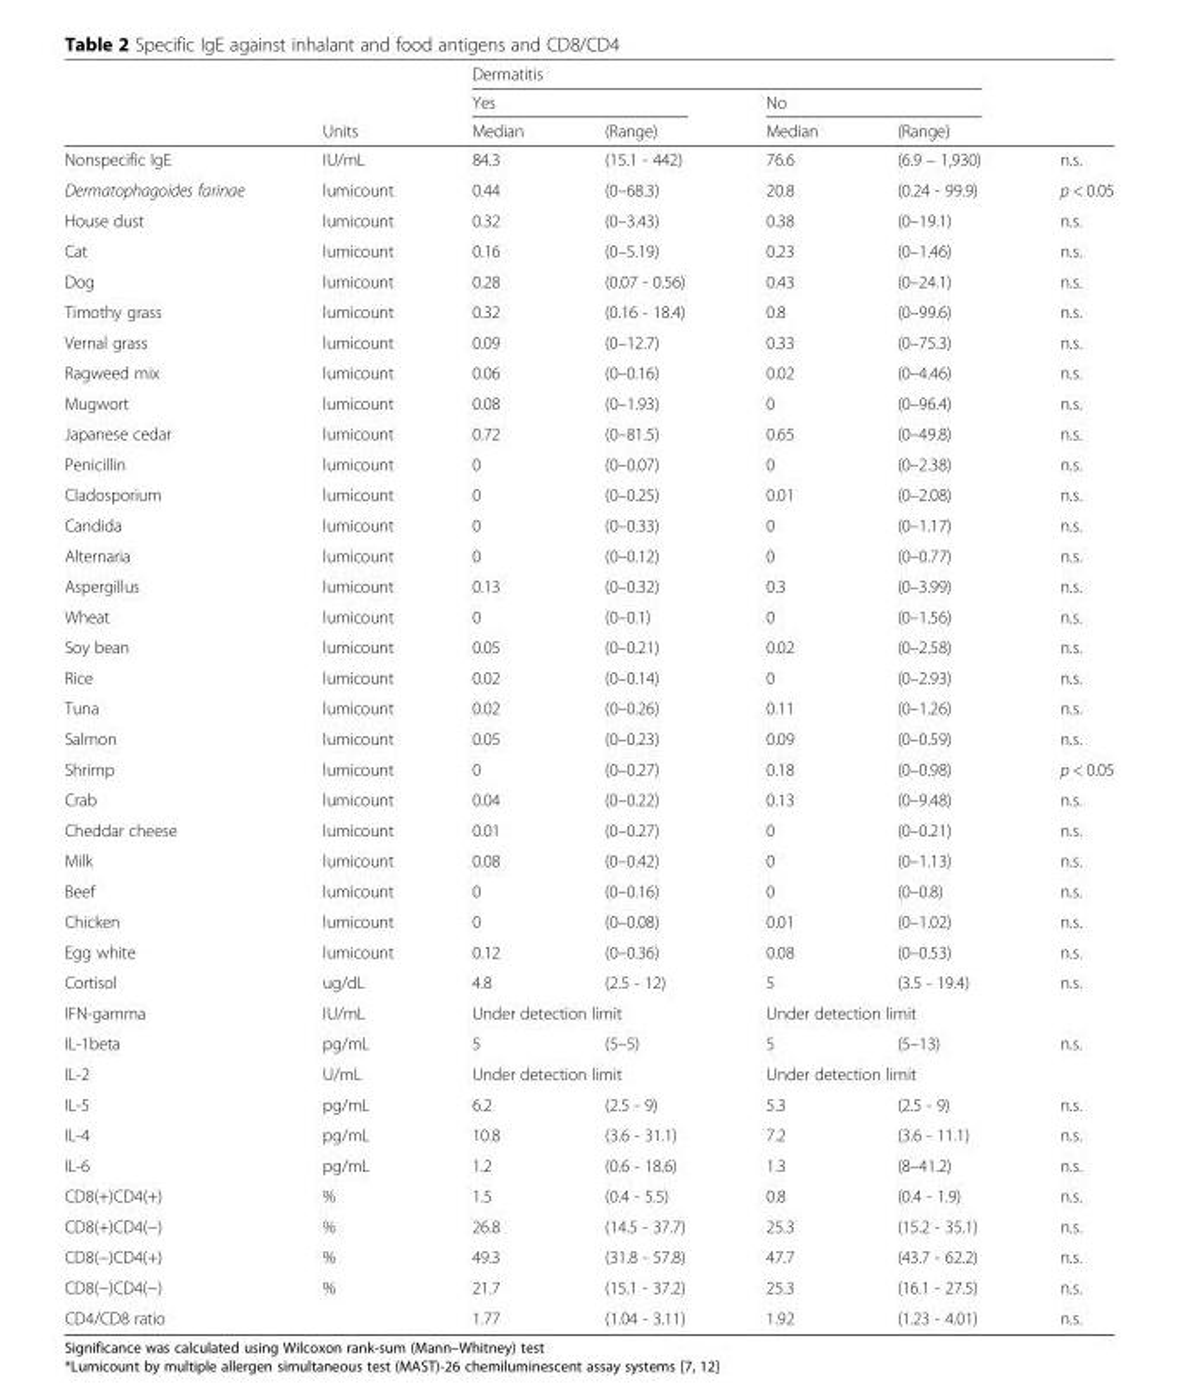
<table><thead><tr><td rowspan="3"></td><td rowspan="3">Units</td><td colspan="4">Dermatitis</td><td rowspan="3"></td></tr><tr><td colspan="2">Yes</td><td colspan="2">No</td></tr><tr><td>Median</td><td>(Range)</td><td>Median</td><td>(Range)</td></tr></thead><tbody><tr><td>Nonspecific IgE</td><td>IU/mL</td><td>84.3</td><td>(15.1 - 442)</td><td>76.6</td><td>(6.9 – 1,930)</td><td>n.s.</td></tr><tr><td>Dermatophagoides farinae</td><td>lumicount</td><td>0.44</td><td>(0–68.3)</td><td>20.8</td><td>(0.24 - 99.9)</td><td>p &lt; 0.05</td></tr><tr><td>House dust</td><td>lumicount</td><td>0.32</td><td>(0–3.43)</td><td>0.38</td><td>(0–19.1)</td><td>n.s.</td></tr><tr><td>Cat</td><td>lumicount</td><td>0.16</td><td>(0–5.19)</td><td>0.23</td><td>(0–1.46)</td><td>n.s.</td></tr><tr><td>Dog</td><td>lumicount</td><td>0.28</td><td>(0.07 - 0.56)</td><td>0.43</td><td>(0–24.1)</td><td>n.s.</td></tr><tr><td>Timothy grass</td><td>lumicount</td><td>0.32</td><td>(0.16 - 18.4)</td><td>0.8</td><td>(0–99.6)</td><td>n.s.</td></tr><tr><td>Vernal grass</td><td>lumicount</td><td>0.09</td><td>(0–12.7)</td><td>0.33</td><td>(0–75.3)</td><td>n.s.</td></tr><tr><td>Ragweed mix</td><td>lumicount</td><td>0.06</td><td>(0–0.16)</td><td>0.02</td><td>(0–4.46)</td><td>n.s.</td></tr><tr><td>Mugwort</td><td>lumicount</td><td>0.08</td><td>(0–1.93)</td><td>0</td><td>(0–96.4)</td><td>n.s.</td></tr><tr><td>Japanese cedar</td><td>lumicount</td><td>0.72</td><td>(0–81.5)</td><td>0.65</td><td>(0–49.8)</td><td>n.s.</td></tr><tr><td>Penicillin</td><td>lumicount</td><td>0</td><td>(0–0.07)</td><td>0</td><td>(0–2.38)</td><td>n.s.</td></tr><tr><td>Cladosporium</td><td>lumicount</td><td>0</td><td>(0–0.25)</td><td>0.01</td><td>(0–2.08)</td><td>n.s.</td></tr><tr><td>Candida</td><td>lumicount</td><td>0</td><td>(0–0.33)</td><td>0</td><td>(0–1.17)</td><td>n.s.</td></tr><tr><td>Alternaria</td><td>lumicount</td><td>0</td><td>(0–0.12)</td><td>0</td><td>(0–0.77)</td><td>n.s.</td></tr><tr><td>Aspergillus</td><td>lumicount</td><td>0.13</td><td>(0–0.32)</td><td>0.3</td><td>(0–3.99)</td><td>n.s.</td></tr><tr><td>Wheat</td><td>lumicount</td><td>0</td><td>(0–0.1)</td><td>0</td><td>(0–1.56)</td><td>n.s.</td></tr><tr><td>Soy bean</td><td>lumicount</td><td>0.05</td><td>(0–0.21)</td><td>0.02</td><td>(0–2.58)</td><td>n.s.</td></tr><tr><td>Rice</td><td>lumicount</td><td>0.02</td><td>(0–0.14)</td><td>0</td><td>(0–2.93)</td><td>n.s.</td></tr><tr><td>Tuna</td><td>lumicount</td><td>0.02</td><td>(0–0.26)</td><td>0.11</td><td>(0–1.26)</td><td>n.s.</td></tr><tr><td>Salmon</td><td>lumicount</td><td>0.05</td><td>(0–0.23)</td><td>0.09</td><td>(0–0.59)</td><td>n.s.</td></tr><tr><td>Shrimp</td><td>lumicount</td><td>0</td><td>(0–0.27)</td><td>0.18</td><td>(0–0.98)</td><td>p &lt; 0.05</td></tr><tr><td>Crab</td><td>lumicount</td><td>0.04</td><td>(0–0.22)</td><td>0.13</td><td>(0–9.48)</td><td>n.s.</td></tr><tr><td>Cheddar cheese</td><td>lumicount</td><td>0.01</td><td>(0–0.27)</td><td>0</td><td>(0–0.21)</td><td>n.s.</td></tr><tr><td>Milk</td><td>lumicount</td><td>0.08</td><td>(0–0.42)</td><td>0</td><td>(0–1.13)</td><td>n.s.</td></tr><tr><td>Beef</td><td>lumicount</td><td>0</td><td>(0–0.16)</td><td>0</td><td>(0–0.8)</td><td>n.s.</td></tr><tr><td>Chicken</td><td>lumicount</td><td>0</td><td>(0–0.08)</td><td>0.01</td><td>(0–1.02)</td><td>n.s.</td></tr><tr><td>Egg white</td><td>lumicount</td><td>0.12</td><td>(0–0.36)</td><td>0.08</td><td>(0–0.53)</td><td>n.s.</td></tr><tr><td>Cortisol</td><td>ug/dL</td><td>4.8</td><td>(2.5 - 12)</td><td>5</td><td>(3.5 - 19.4)</td><td>n.s.</td></tr><tr><td>IFN-gamma</td><td>IU/mL</td><td colspan="2">Under detection limit</td><td colspan="2">Under detection limit</td><td></td></tr><tr><td>IL-1beta</td><td>pg/mL</td><td>5</td><td>(5–5)</td><td>5</td><td>(5–13)</td><td>n.s.</td></tr><tr><td>IL-2</td><td>U/mL</td><td colspan="2">Under detection limit</td><td colspan="2">Under detection limit</td><td></td></tr><tr><td>IL-5</td><td>pg/mL</td><td>6.2</td><td>(2.5 - 9)</td><td>5.3</td><td>(2.5 - 9)</td><td>n.s.</td></tr><tr><td>IL-4</td><td>pg/mL</td><td>10.8</td><td>(3.6 - 31.1)</td><td>7.2</td><td>(3.6 - 11.1)</td><td>n.s.</td></tr><tr><td>IL-6</td><td>pg/mL</td><td>1.2</td><td>(0.6 - 18.6)</td><td>1.3</td><td>(8–41.2)</td><td>n.s.</td></tr><tr><td>CD8(+)CD4(+)</td><td>%</td><td>1.5</td><td>(0.4 - 5.5)</td><td>0.8</td><td>(0.4 - 1.9)</td><td>n.s.</td></tr><tr><td>CD8(+)CD4(−)</td><td>%</td><td>26.8</td><td>(14.5 - 37.7)</td><td>25.3</td><td>(15.2 - 35.1)</td><td>n.s.</td></tr><tr><td>CD8(−)CD4(+)</td><td>%</td><td>49.3</td><td>(31.8 - 57.8)</td><td>47.7</td><td>(43.7 - 62.2)</td><td>n.s.</td></tr><tr><td>CD8(−)CD4(−)</td><td>%</td><td>21.7</td><td>(15.1 - 37.2)</td><td>25.3</td><td>(16.1 - 27.5)</td><td>n.s.</td></tr><tr><td>CD4/CD8 ratio</td><td></td><td>1.77</td><td>(1.04 - 3.11)</td><td>1.92</td><td>(1.23 - 4.01)</td><td>n.s.</td></tr></tbody></table>